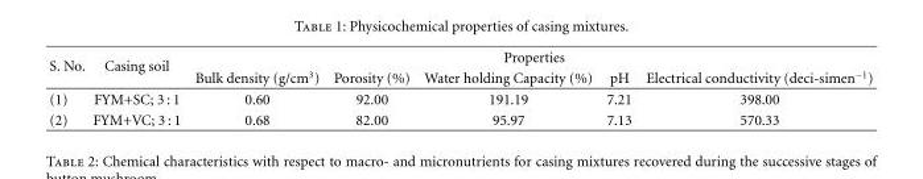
<table><thead><tr><td rowspan="2">S. No.</td><td rowspan="2">Casing soil</td><td colspan="5">Properties</td></tr><tr><td>Bulk density (g/cm<sup>3</sup>)</td><td>Porosity (%)</td><td>Water holding Capacity (%)</td><td>pH</td><td>Electrical conductivity (deci-simen<sup>−1</sup>)</td></tr></thead><tbody><tr><td>(1)</td><td>FYM+SC; 3 : 1</td><td>0.60</td><td>92.00</td><td>191.19</td><td>7.21</td><td>398.00</td></tr><tr><td>(2)</td><td>FYM+VC; 3 : 1</td><td>0.68</td><td>82.00</td><td>95.97</td><td>7.13</td><td>570.33</td></tr></tbody></table>